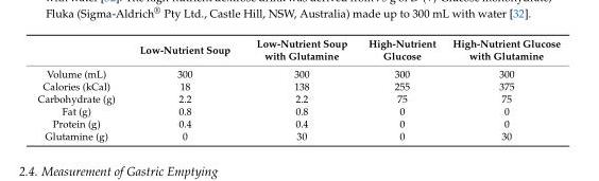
<table><thead><tr><td></td><td>Low-Nutrient Soup</td><td>Low-Nutrient Soup with Glutamine</td><td>High-Nutrient Glucose</td><td>High-Nutrient Glucose with Glutamine</td></tr></thead><tbody><tr><td>Volume (mL)</td><td>300</td><td>300</td><td>300</td><td>300</td></tr><tr><td>Calories (kCal)</td><td>18</td><td>138</td><td>255</td><td>375</td></tr><tr><td>Carbohydrate (g)</td><td>2.2</td><td>2.2</td><td>75</td><td>75</td></tr><tr><td>Fat (g)</td><td>0.8</td><td>0.8</td><td>0</td><td>0</td></tr><tr><td>Protein (g)</td><td>0.4</td><td>0.4</td><td>0</td><td>0</td></tr><tr><td>Glutamine (g)</td><td>0</td><td>30</td><td>0</td><td>30</td></tr></tbody></table>